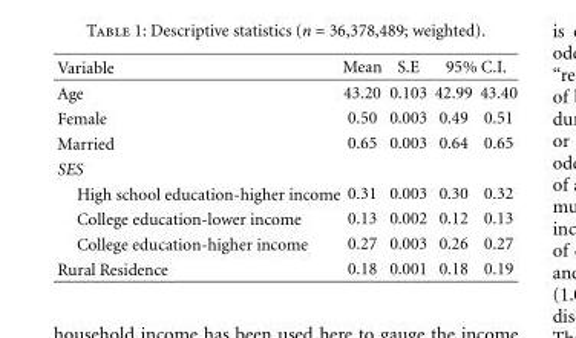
<table><thead><tr><td rowspan="2">Variable Age</td><td rowspan="2">Mean 43.20</td><td rowspan="2">S.E 0.103</td><td colspan="2">95% C.I.</td></tr><tr><td>42.99</td><td>43.40</td></tr></thead><tbody><tr><td>Female</td><td>0.50</td><td>0.003</td><td>0.49</td><td>0.51</td></tr><tr><td>Married</td><td>0.65</td><td>0.003</td><td>0.64</td><td>0.65</td></tr><tr><td colspan="5">SES</td></tr><tr><td>High school education-higher income</td><td>0.31</td><td>0.003</td><td>0.30</td><td>0.32</td></tr><tr><td>College education-lower income</td><td>0.13</td><td>0.002</td><td>0.12</td><td>0.13</td></tr><tr><td>College education-higher income</td><td>0.27</td><td>0.003</td><td>0.26</td><td>0.27</td></tr><tr><td>Rural Residence</td><td>0.18</td><td>0.001</td><td>0.18</td><td>0.19</td></tr></tbody></table>